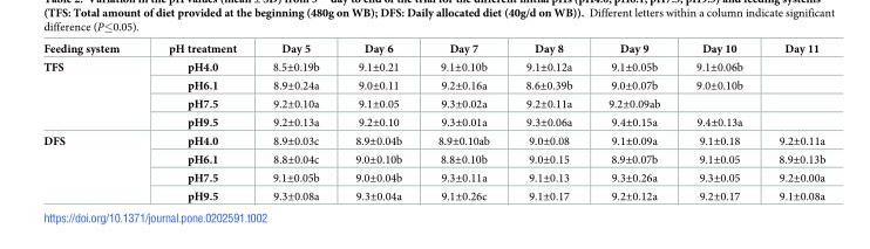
<table><thead><tr><td>Feeding system</td><td>pH treatment</td><td>Day 5</td><td>Day 6</td><td>Day 7</td><td>Day 8</td><td>Day 9</td><td>Day 10</td><td>Day 11</td></tr></thead><tbody><tr><td rowspan="4">TFS</td><td>pH4.0</td><td>8.5±0.19b</td><td>9.1±0.21</td><td>9.1±0.10b</td><td>9.1±0.12a</td><td>9.1±0.05b</td><td>9.1±0.06b</td><td></td></tr><tr><td>pH6.1</td><td>8.9±0.24a</td><td>9.0±0.11</td><td>9.2±0.16a</td><td>8.6±0.39b</td><td>9.0±0.07b</td><td>9.0±0.10b</td><td></td></tr><tr><td>pH7.5</td><td>9.2±0.10a</td><td>9.1±0.05</td><td>9.3±0.02a</td><td>9.2±0.11a</td><td>9.2±0.09ab</td><td></td><td></td></tr><tr><td>pH9.5</td><td>9.2±0.13a</td><td>9.2±0.10</td><td>9.3±0.01a</td><td>9.3±0.06a</td><td>9.4±0.15a</td><td>9.4±0.13a</td><td></td></tr><tr><td rowspan="4">DFS</td><td>pH4.0</td><td>8.9±0.03c</td><td>8.9±0.04b</td><td>8.9±0.10ab</td><td>9.0±0.08</td><td>9.1±0.09a</td><td>9.1±0.18</td><td>9.2±0.11a</td></tr><tr><td>pH6.1</td><td>8.8±0.04c</td><td>9.0±0.10b</td><td>8.8±0.10b</td><td>9.0±0.15</td><td>8.9±0.07b</td><td>9.1±0.05</td><td>8.9±0.13b</td></tr><tr><td>pH7.5</td><td>9.1±0.05b</td><td>9.0±0.04b</td><td>9.3±0.11a</td><td>9.1±0.13</td><td>9.3±0.26a</td><td>9.3±0.05</td><td>9.2±0.00a</td></tr><tr><td>pH9.5</td><td>9.3±0.08a</td><td>9.3±0.04a</td><td>9.1±0.26c</td><td>9.1±0.17</td><td>9.2±0.12a</td><td>9.2±0.17</td><td>9.1±0.08a</td></tr></tbody></table>